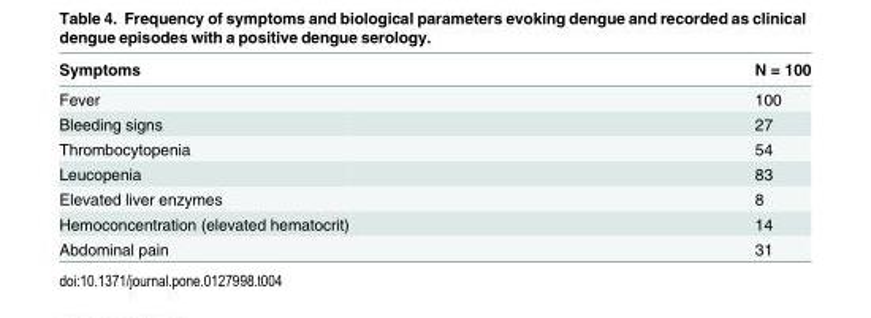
<table><thead><tr><td>Symptoms</td><td>N = 100</td></tr></thead><tbody><tr><td>Fever</td><td>100</td></tr><tr><td>Bleeding signs</td><td>27</td></tr><tr><td>Thrombocytopenia</td><td>54</td></tr><tr><td>Leucopenia</td><td>83</td></tr><tr><td>Elevated liver enzymes</td><td>8</td></tr><tr><td>Hemoconcentration (elevated hematocrit)</td><td>14</td></tr><tr><td>Abdominal pain</td><td>31</td></tr></tbody></table>